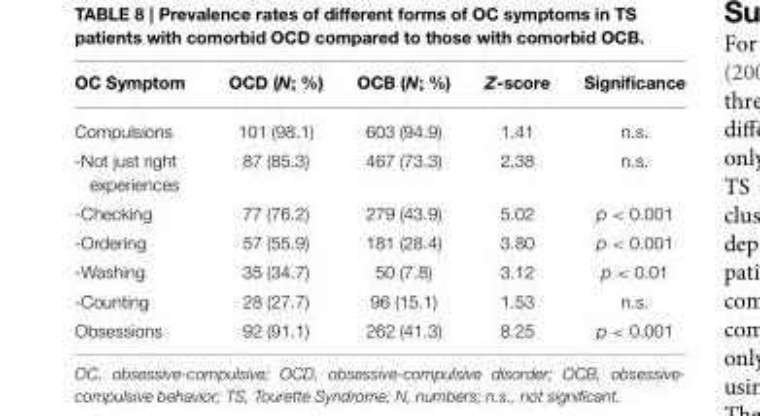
<table><thead><tr><td>OC Symptom</td><td>OCD (N; %)</td><td>OCB (N; %)</td><td>Z-score</td><td>Significance</td></tr></thead><tbody><tr><td>Compulsions</td><td>101 (98.1)</td><td>603 (94.9)</td><td>1.41</td><td>n.s.</td></tr><tr><td>-Not just right experiences</td><td>87 (85.3)</td><td>467 (73.3)</td><td>2.38</td><td>n.s.</td></tr><tr><td>-Checking</td><td>77 (76.2)</td><td>279 (43.9)</td><td>5.02</td><td>p &lt; 0.001</td></tr><tr><td>-Ordering</td><td>57 (55.9)</td><td>181 (28.4)</td><td>3.80</td><td>p &lt; 0.001</td></tr><tr><td>-Washing</td><td>35 (34.7)</td><td>50 (7.8)</td><td>3.12</td><td>p &lt; 0.01</td></tr><tr><td>-Counting</td><td>28 (27.7)</td><td>96 (15.1)</td><td>1.53</td><td>n.s.</td></tr><tr><td>Obsessions</td><td>92 (91.1)</td><td>262 (41.3)</td><td>8.25</td><td>p &lt; 0.001</td></tr></tbody></table>